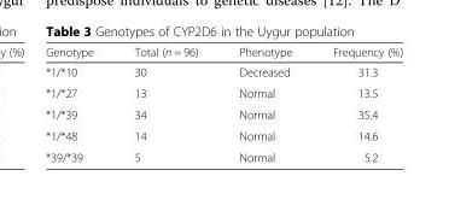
<table><thead><tr><td>Genotype</td><td>Total (n = 96)</td><td>Phenotype</td><td>Frequency (%)</td></tr></thead><tbody><tr><td>*1/*10</td><td>30</td><td>Decreased</td><td>31.3</td></tr><tr><td>*1/*27</td><td>13</td><td>Normal</td><td>13.5</td></tr><tr><td>*1/*39</td><td>34</td><td>Normal</td><td>35.4</td></tr><tr><td>*1/*48</td><td>14</td><td>Normal</td><td>14.6</td></tr><tr><td>*39/*39</td><td>5</td><td>Normal</td><td>5.2</td></tr></tbody></table>